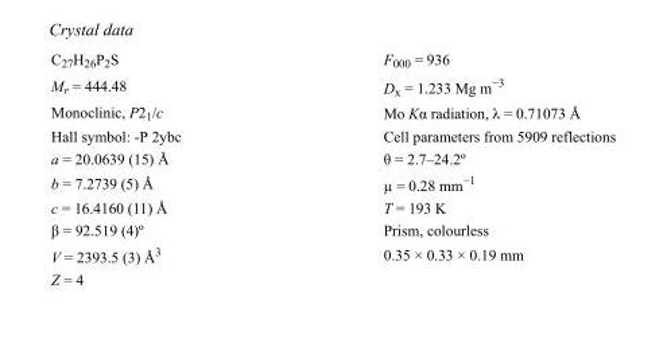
<table><tbody><tr><td>C<sub>27</sub>H<sub>26</sub>P<sub>2</sub>S</td><td>F000 = 936</td></tr><tr><td>M<sub>r</sub> = 444.48</td><td>D<sub>x</sub> = 1.233 Mg m<sup>−3</sup></td></tr><tr><td>Monoclinic, P2<sub>1</sub>/c</td><td>Mo Kα radiation, λ = 0.71073 Å</td></tr><tr><td>Hall symbol: -P 2ybc</td><td>Cell parameters from 5909 reflections</td></tr><tr><td>a = 20.0639 (15) Å</td><td>θ = 2.7–24.2º</td></tr><tr><td>b = 7.2739 (5) Å</td><td>µ = 0.28 mm<sup>−1</sup></td></tr><tr><td>c = 16.4160 (11) Å</td><td>T = 193 K</td></tr><tr><td>β = 92.519 (4)º</td><td>Prism, colourless</td></tr><tr><td>V = 2393.5 (3) Å<sup>3</sup></td><td>0.35 × 0.33 × 0.19 mm</td></tr><tr><td>Z = 4</td><td></td></tr></tbody></table>